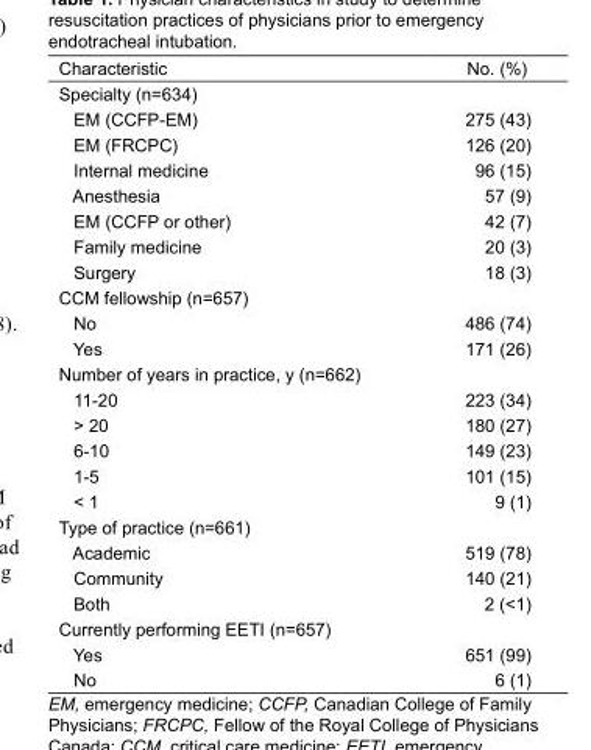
<table><thead><tr><td>Characteristic</td><td>No. (%)</td></tr></thead><tbody><tr><td colspan="2">Specialty (n=634)</td></tr><tr><td>EM (CCFP-EM)</td><td>275 (43)</td></tr><tr><td>EM (FRCPC)</td><td>126 (20)</td></tr><tr><td>Internal medicine</td><td>96 (15)</td></tr><tr><td>Anesthesia</td><td>57 (9)</td></tr><tr><td>EM (CCFP or other)</td><td>42 (7)</td></tr><tr><td>Family medicine</td><td>20 (3)</td></tr><tr><td>Surgery</td><td>18 (3)</td></tr><tr><td colspan="2">CCM fellowship (n=657)</td></tr><tr><td>No</td><td>486 (74)</td></tr><tr><td>Yes</td><td>171 (26)</td></tr><tr><td colspan="2">Number of years in practice, y (n=662)</td></tr><tr><td>11-20</td><td>223 (34)</td></tr><tr><td>&gt; 20</td><td>180 (27)</td></tr><tr><td>6-10</td><td>149 (23)</td></tr><tr><td>1-5</td><td>101 (15)</td></tr><tr><td>&lt; 1</td><td>9 (1)</td></tr><tr><td colspan="2">Type of practice (n=661)</td></tr><tr><td>Academic</td><td>519 (78)</td></tr><tr><td>Community</td><td>140 (21)</td></tr><tr><td>Both</td><td>2 (&lt;1)</td></tr><tr><td colspan="2">Currently performing EETI (n=657)</td></tr><tr><td>Yes</td><td>651 (99)</td></tr><tr><td>No</td><td>6 (1)</td></tr></tbody></table>